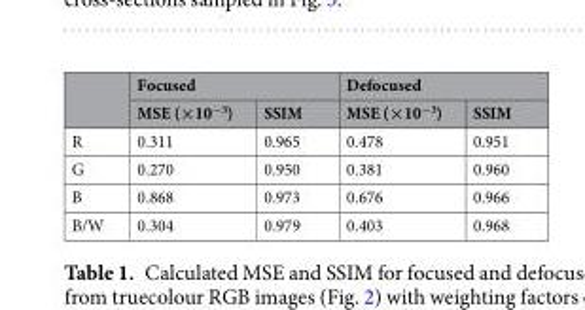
<table><thead><tr><td rowspan="2"></td><td colspan="2">Focused</td><td colspan="2">Defocused</td></tr><tr><td>MSE (×10<sup>−3</sup>)</td><td>SSIM</td><td>MSE (×10<sup>−3</sup>)</td><td>SSIM</td></tr></thead><tbody><tr><td>R</td><td>0.311</td><td>0.965</td><td>0.478</td><td>0.951</td></tr><tr><td>G</td><td>0.270</td><td>0.950</td><td>0.381</td><td>0.960</td></tr><tr><td>B</td><td>0.868</td><td>0.973</td><td>0.676</td><td>0.966</td></tr><tr><td>B/W</td><td>0.304</td><td>0.979</td><td>0.403</td><td>0.968</td></tr></tbody></table>